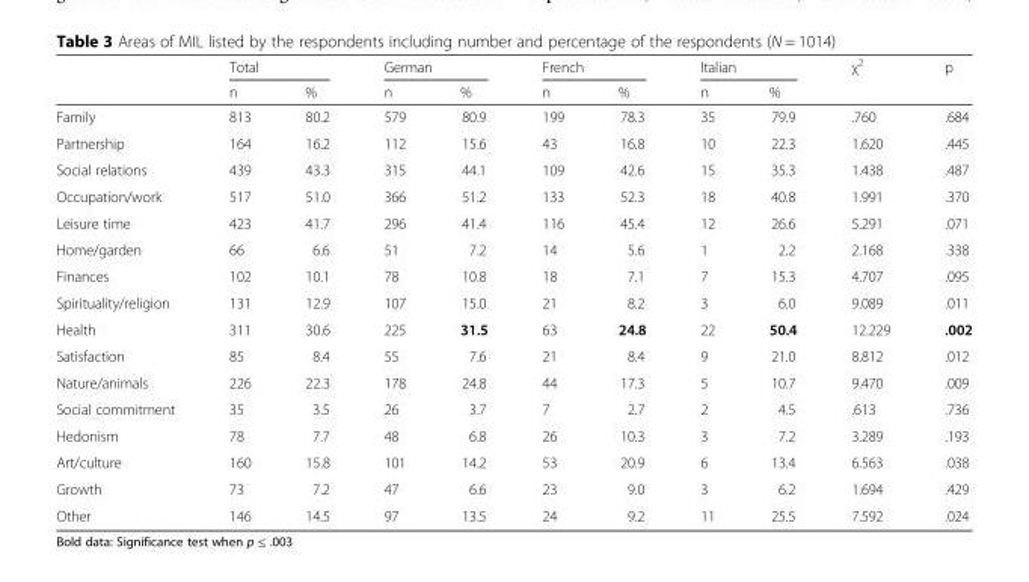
<table><thead><tr><td rowspan="2"></td><td colspan="2">Total</td><td colspan="2">German</td><td colspan="2">French</td><td colspan="2">Italian</td><td rowspan="2">χ<sup>2</sup></td><td rowspan="2">p</td></tr><tr><td>n</td><td>%</td><td>n</td><td>%</td><td>n</td><td>%</td><td>n</td><td>%</td></tr></thead><tbody><tr><td>Family</td><td>813</td><td>80.2</td><td>579</td><td>80.9</td><td>199</td><td>78.3</td><td>35</td><td>79.9</td><td>.760</td><td>.684</td></tr><tr><td>Partnership</td><td>164</td><td>16.2</td><td>112</td><td>15.6</td><td>43</td><td>16.8</td><td>10</td><td>22.3</td><td>1.620</td><td>.445</td></tr><tr><td>Social relations</td><td>439</td><td>43.3</td><td>315</td><td>44.1</td><td>109</td><td>42.6</td><td>15</td><td>35.3</td><td>1.438</td><td>.487</td></tr><tr><td>Occupation/work</td><td>517</td><td>51.0</td><td>366</td><td>51.2</td><td>133</td><td>52.3</td><td>18</td><td>40.8</td><td>1.991</td><td>.370</td></tr><tr><td>Leisure time</td><td>423</td><td>41.7</td><td>296</td><td>41.4</td><td>116</td><td>45.4</td><td>12</td><td>26.6</td><td>5.291</td><td>.071</td></tr><tr><td>Home/garden</td><td>66</td><td>6.6</td><td>51</td><td>7.2</td><td>14</td><td>5.6</td><td>1</td><td>2.2</td><td>2.168</td><td>.338</td></tr><tr><td>Finances</td><td>102</td><td>10.1</td><td>78</td><td>10.8</td><td>18</td><td>7.1</td><td>7</td><td>15.3</td><td>4.707</td><td>.095</td></tr><tr><td>Spirituality/religion</td><td>131</td><td>12.9</td><td>107</td><td>15.0</td><td>21</td><td>8.2</td><td>3</td><td>6.0</td><td>9.089</td><td>.011</td></tr><tr><td>Health</td><td>311</td><td>30.6</td><td>225</td><td>31.5</td><td>63</td><td>24.8</td><td>22</td><td>50.4</td><td>12.229</td><td>.002</td></tr><tr><td>Satisfaction</td><td>85</td><td>8.4</td><td>55</td><td>7.6</td><td>21</td><td>8.4</td><td>9</td><td>21.0</td><td>8.812</td><td>.012</td></tr><tr><td>Nature/animals</td><td>226</td><td>22.3</td><td>178</td><td>24.8</td><td>44</td><td>17.3</td><td>5</td><td>10.7</td><td>9.470</td><td>.009</td></tr><tr><td>Social commitment</td><td>35</td><td>3.5</td><td>26</td><td>3.7</td><td>7</td><td>2.7</td><td>2</td><td>4.5</td><td>.613</td><td>.736</td></tr><tr><td>Hedonism</td><td>78</td><td>7.7</td><td>48</td><td>6.8</td><td>26</td><td>10.3</td><td>3</td><td>7.2</td><td>3.289</td><td>.193</td></tr><tr><td>Art/culture</td><td>160</td><td>15.8</td><td>101</td><td>14.2</td><td>53</td><td>20.9</td><td>6</td><td>13.4</td><td>6.563</td><td>.038</td></tr><tr><td>Growth</td><td>73</td><td>7.2</td><td>47</td><td>6.6</td><td>23</td><td>9.0</td><td>3</td><td>6.2</td><td>1.694</td><td>.429</td></tr><tr><td>Other</td><td>146</td><td>14.5</td><td>97</td><td>13.5</td><td>24</td><td>9.2</td><td>11</td><td>25.5</td><td>7.592</td><td>.024</td></tr></tbody></table>